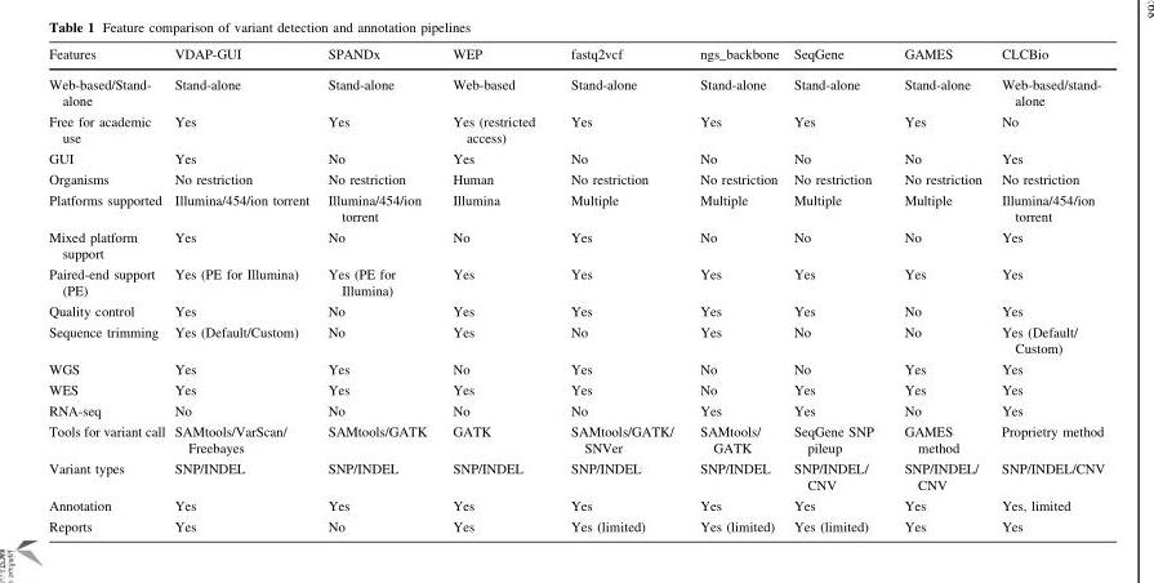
<table><thead><tr><td>Features</td><td>VDAP-GUI</td><td>SPANDx</td><td>WEP</td><td>fastq2vcf</td><td>ngs_backbone</td><td>SeqGene</td><td>GAMES</td><td>CLCBio</td></tr></thead><tbody><tr><td>Web-based/Stand- alone</td><td>Stand-alone</td><td>Stand-alone</td><td>Web-based</td><td>Stand-alone</td><td>Stand-alone</td><td>Stand-alone</td><td>Stand-alone</td><td>Web-based/stand- alone</td></tr><tr><td>Free for academic use</td><td>Yes</td><td>Yes</td><td>Yes (restricted access)</td><td>Yes</td><td>Yes</td><td>Yes</td><td>Yes</td><td>No</td></tr><tr><td>GUI</td><td>Yes</td><td>No</td><td>Yes</td><td>No</td><td>No</td><td>No</td><td>No</td><td>Yes</td></tr><tr><td>Organisms</td><td>No restriction</td><td>No restriction</td><td>Human</td><td>No restriction</td><td>No restriction</td><td>No restriction</td><td>No restriction</td><td>No restriction</td></tr><tr><td>Platforms supported</td><td>Illumina/454/ion torrent</td><td>Illumina/454/ion torrent</td><td>Illumina</td><td>Multiple</td><td>Multiple</td><td>Multiple</td><td>Multiple</td><td>Illumina/454/ion torrent</td></tr><tr><td>Mixed platform support</td><td>Yes</td><td>No</td><td>No</td><td>Yes</td><td>No</td><td>No</td><td>No</td><td>Yes</td></tr><tr><td>Paired-end support (PE)</td><td>Yes (PE for Illumina)</td><td>Yes (PE for Illumina)</td><td>Yes</td><td>Yes</td><td>Yes</td><td>Yes</td><td>Yes</td><td>Yes</td></tr><tr><td>Quality control</td><td>Yes</td><td>No</td><td>Yes</td><td>Yes</td><td>Yes</td><td>Yes</td><td>No</td><td>Yes</td></tr><tr><td>Sequence trimming</td><td>Yes (Default/Custom)</td><td>No</td><td>Yes</td><td>No</td><td>Yes</td><td>No</td><td>No</td><td>Yes (Default/ Custom)</td></tr><tr><td>WGS</td><td>Yes</td><td>Yes</td><td>No</td><td>Yes</td><td>No</td><td>No</td><td>Yes</td><td>Yes</td></tr><tr><td>WES</td><td>Yes</td><td>Yes</td><td>Yes</td><td>Yes</td><td>No</td><td>Yes</td><td>Yes</td><td>Yes</td></tr><tr><td>RNA-seq</td><td>No</td><td>No</td><td>No</td><td>No</td><td>Yes</td><td>Yes</td><td>No</td><td>Yes</td></tr><tr><td>Tools for variant call</td><td>SAMtools/VarScan/ Freebayes</td><td>SAMtools/GATK</td><td>GATK</td><td>SAMtools/GATK/ SNVer</td><td>SAMtools/ GATK</td><td>SeqGene SNP pileup</td><td>GAMES method</td><td>Proprietry method</td></tr><tr><td>Variant types</td><td>SNP/INDEL</td><td>SNP/INDEL</td><td>SNP/INDEL</td><td>SNP/INDEL</td><td>SNP/INDEL</td><td>SNP/INDEL/ CNV</td><td>SNP/INDEL/ CNV</td><td>SNP/INDEL/CNV</td></tr><tr><td>Annotation</td><td>Yes</td><td>Yes</td><td>Yes</td><td>Yes</td><td>Yes</td><td>Yes</td><td>Yes</td><td>Yes, limited</td></tr><tr><td>Reports</td><td>Yes</td><td>No</td><td>Yes</td><td>Yes (limited)</td><td>Yes (limited)</td><td>Yes (limited)</td><td>Yes</td><td>Yes</td></tr></tbody></table>